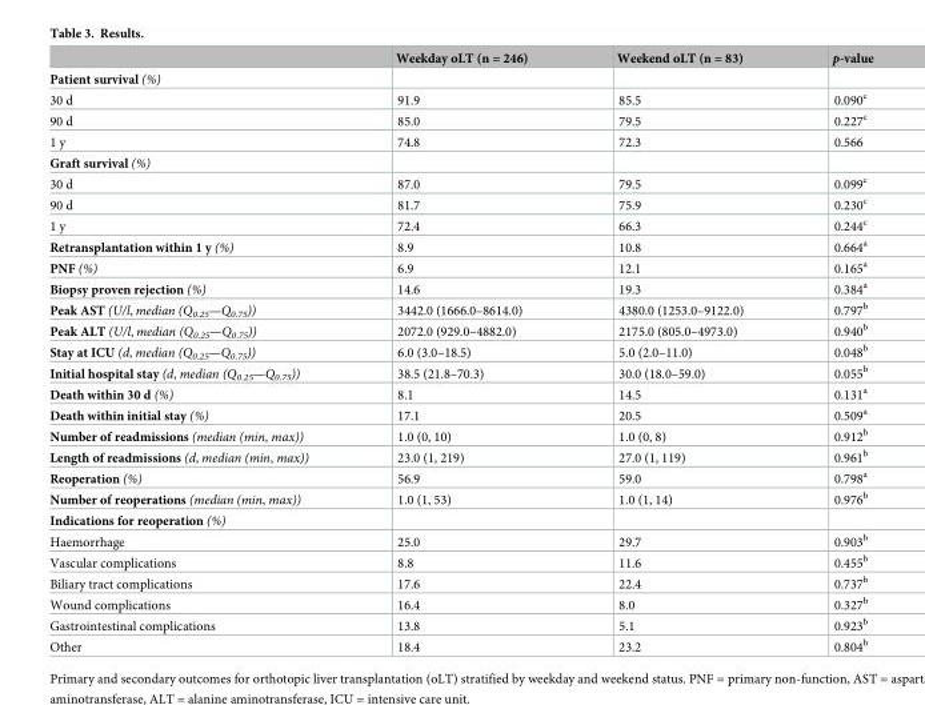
<table><thead><tr><td></td><td>Weekday oLT (n = 246)</td><td>Weekend oLT (n = 83)</td><td>p-value</td></tr></thead><tbody><tr><td colspan="4">Patient survival (%)</td></tr><tr><td>30 d</td><td>91.9</td><td>85.5</td><td>0.090<sup>c</sup></td></tr><tr><td>90 d</td><td>85.0</td><td>79.5</td><td>0.227<sup>c</sup></td></tr><tr><td>1 y</td><td>74.8</td><td>72.3</td><td>0.566</td></tr><tr><td colspan="4">Graft survival (%)</td></tr><tr><td>30 d</td><td>87.0</td><td>79.5</td><td>0.099<sup>c</sup></td></tr><tr><td>90 d</td><td>81.7</td><td>75.9</td><td>0.230<sup>c</sup></td></tr><tr><td>1 y</td><td>72.4</td><td>66.3</td><td>0.244<sup>c</sup></td></tr><tr><td>Retransplantation within 1 y (%)</td><td>8.9</td><td>10.8</td><td>0.664<sup>a</sup></td></tr><tr><td>PNF (%)</td><td>6.9</td><td>12.1</td><td>0.165<sup>a</sup></td></tr><tr><td>Biopsy proven rejection (%)</td><td>14.6</td><td>19.3</td><td>0.384<sup>a</sup></td></tr><tr><td>Peak AST (U/l, median (Q<sub>0.25</sub>—Q<sub>0.75</sub>))</td><td>3442.0 (1666.0–8614.0)</td><td>4380.0 (1253.0–9122.0)</td><td>0.797<sup>b</sup></td></tr><tr><td>Peak ALT (U/l, median (Q<sub>0.25</sub>—Q<sub>0.75</sub>))</td><td>2072.0 (929.0–4882.0)</td><td>2175.0 (805.0–4973.0)</td><td>0.940<sup>b</sup></td></tr><tr><td>Stay at ICU (d, median (Q<sub>0.25</sub>—Q<sub>0.75</sub>))</td><td>6.0 (3.0–18.5)</td><td>5.0 (2.0–11.0)</td><td>0.048<sup>b</sup></td></tr><tr><td>Initial hospital stay (d, median (Q<sub>0.25</sub>—Q<sub>0.75</sub>))</td><td>38.5 (21.8–70.3)</td><td>30.0 (18.0–59.0)</td><td>0.055<sup>b</sup></td></tr><tr><td>Death within 30 d (%)</td><td>8.1</td><td>14.5</td><td>0.131<sup>a</sup></td></tr><tr><td>Death within initial stay (%)</td><td>17.1</td><td>20.5</td><td>0.509<sup>a</sup></td></tr><tr><td>Number of readmissions (median (min, max))</td><td>1.0 (0, 10)</td><td>1.0 (0, 8)</td><td>0.912<sup>b</sup></td></tr><tr><td>Length of readmissions (d, median (min, max))</td><td>23.0 (1, 219)</td><td>27.0 (1, 119)</td><td>0.961<sup>b</sup></td></tr><tr><td>Reoperation (%)</td><td>56.9</td><td>59.0</td><td>0.798<sup>a</sup></td></tr><tr><td>Number of reoperations (median (min, max))</td><td>1.0 (1, 53)</td><td>1.0 (1, 14)</td><td>0.976<sup>b</sup></td></tr><tr><td colspan="4">Indications for reoperation (%)</td></tr><tr><td>Haemorrhage</td><td>25.0</td><td>29.7</td><td>0.903<sup>b</sup></td></tr><tr><td>Vascular complications</td><td>8.8</td><td>11.6</td><td>0.455<sup>b</sup></td></tr><tr><td>Biliary tract complications</td><td>17.6</td><td>22.4</td><td>0.737<sup>b</sup></td></tr><tr><td>Wound complications</td><td>16.4</td><td>8.0</td><td>0.327<sup>b</sup></td></tr><tr><td>Gastrointestinal complications</td><td>13.8</td><td>5.1</td><td>0.923<sup>b</sup></td></tr><tr><td>Other</td><td>18.4</td><td>23.2</td><td>0.804<sup>b</sup></td></tr></tbody></table>